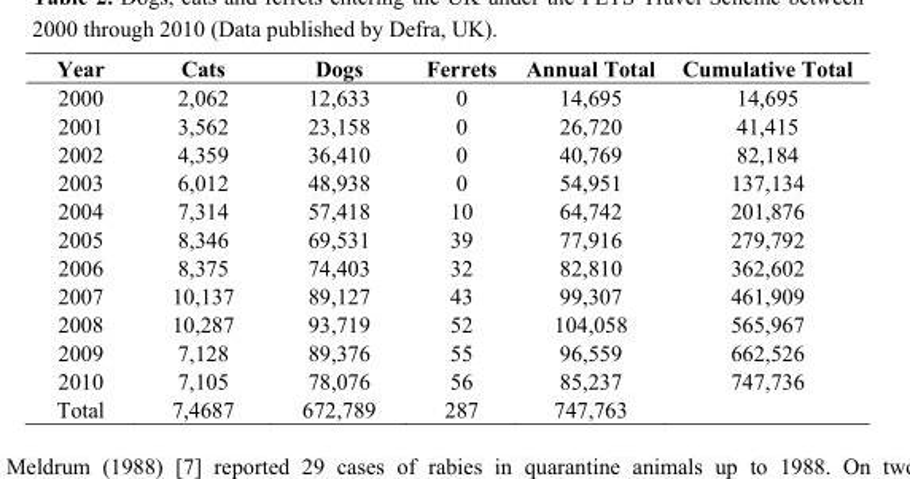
<table><thead><tr><td>Year</td><td>Cats</td><td>Dogs</td><td>Ferrets</td><td>Annual Total</td><td>Cumulative Total</td></tr></thead><tbody><tr><td>2000</td><td>2,062</td><td>12,633</td><td>0</td><td>14,695</td><td>14,695</td></tr><tr><td>2001</td><td>3,562</td><td>23,158</td><td>0</td><td>26,720</td><td>41,415</td></tr><tr><td>2002</td><td>4,359</td><td>36,410</td><td>0</td><td>40,769</td><td>82,184</td></tr><tr><td>2003</td><td>6,012</td><td>48,938</td><td>0</td><td>54,951</td><td>137,134</td></tr><tr><td>2004</td><td>7,314</td><td>57,418</td><td>10</td><td>64,742</td><td>201,876</td></tr><tr><td>2005</td><td>8,346</td><td>69,531</td><td>39</td><td>77,916</td><td>279,792</td></tr><tr><td>2006</td><td>8,375</td><td>74,403</td><td>32</td><td>82,810</td><td>362,602</td></tr><tr><td>2007</td><td>10,137</td><td>89,127</td><td>43</td><td>99,307</td><td>461,909</td></tr><tr><td>2008</td><td>10,287</td><td>93,719</td><td>52</td><td>104,058</td><td>565,967</td></tr><tr><td>2009</td><td>7,128</td><td>89,376</td><td>55</td><td>96,559</td><td>662,526</td></tr><tr><td>2010</td><td>7,105</td><td>78,076</td><td>56</td><td>85,237</td><td>747,736</td></tr><tr><td>Total</td><td>7,4687</td><td>672,789</td><td>287</td><td>747,763</td><td></td></tr></tbody></table>